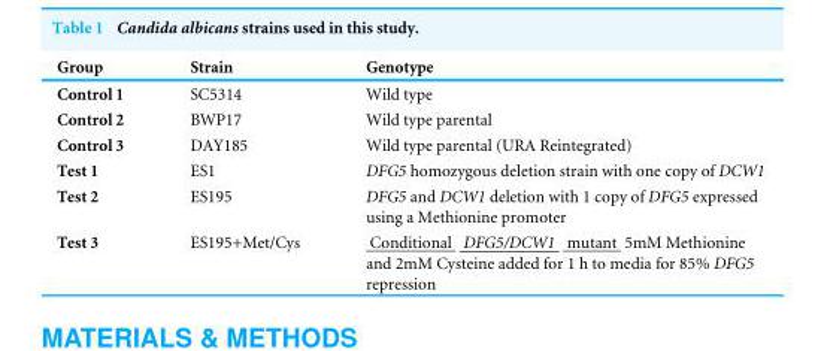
<table><thead><tr><td>Group</td><td>Strain</td><td>Genotype</td></tr></thead><tbody><tr><td>Control 1</td><td>SC5314</td><td>Wild type</td></tr><tr><td>Control 2</td><td>BWP17</td><td>Wild type parental</td></tr><tr><td>Control 3</td><td>DAY185</td><td>Wild type parental (URA Reintegrated)</td></tr><tr><td>Test 1</td><td>ES1</td><td>DFG5 homozygous deletion strain with one copy of DCW1</td></tr><tr><td>Test 2</td><td>ES195</td><td>DFG5 and DCW1 deletion with 1 copy of DFG5 expressed using a Methionine promoter</td></tr><tr><td>Test 3</td><td>ES195+Met/Cys</td><td>Conditional DFG5/DCW1 mutant 5mM Methionine and 2mM Cysteine added for 1 h to media for 85% DFG5 repression</td></tr></tbody></table>